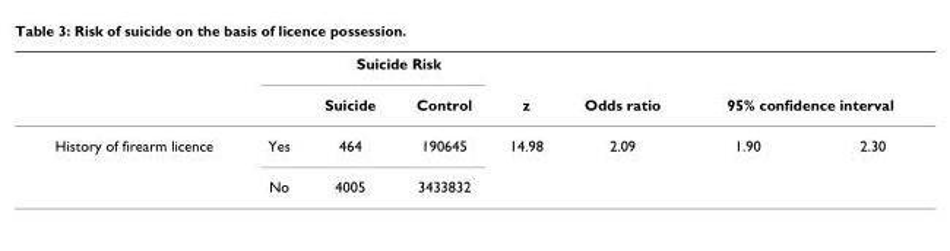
<table><thead><tr><td rowspan="2"></td><td rowspan="2"></td><td colspan="2">Suicide Risk</td><td rowspan="2">z</td><td rowspan="2">Odds ratio</td><td></td><td></td></tr><tr><td>Suicide</td><td>Control</td><td colspan="2">95% confidence interval</td></tr></thead><tbody><tr><td rowspan="2">History of firearm licence</td><td>Yes</td><td>464</td><td>190645</td><td>14.98</td><td>2.09</td><td>1.90</td><td>2.30</td></tr><tr><td>No</td><td>4005</td><td>3433832</td><td></td><td></td><td></td><td></td></tr></tbody></table>